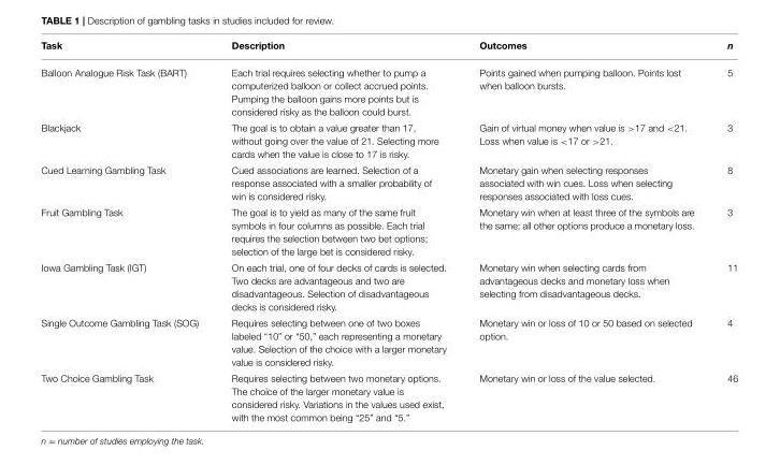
<table><thead><tr><td>Task</td><td>Description</td><td>Outcomes</td><td>n</td></tr></thead><tbody><tr><td>Balloon Analogue Risk Task (BART)</td><td>Each trial requires selecting whether to pump a computerized balloon or collect accrued points. Pumping the balloon gains more points but is considered risky as the balloon could burst.</td><td>Points gained when pumping balloon. Points lost when balloon bursts.</td><td>5</td></tr><tr><td>Blackjack</td><td>The goal is to obtain a value greater than 17, without going over the value of 21. Selecting more cards when the value is close to 17 is risky.</td><td>Gain of virtual money when value is &gt;17 and &lt;21. Loss when value is &lt;17 or &gt;21.</td><td>3</td></tr><tr><td>Cued Learning Gambling Task</td><td>Cued associations are learned. Selection of a response associated with a smaller probability of win is considered risky.</td><td>Monetary gain when selecting responses associated with win cues. Loss when selecting responses associated with loss cues.</td><td>8</td></tr><tr><td>Fruit Gambling Task</td><td>The goal is to yield as many of the same fruit symbols in four columns as possible. Each trial requires the selection between two bet options; selection of the large bet is considered risky.</td><td>Monetary win when at least three of the symbols are the same; all other options produce a monetary loss.</td><td>3</td></tr><tr><td>Iowa Gambling Task (IGT)</td><td>On each trial, one of four decks of cards is selected. Two decks are advantageous and two are disadvantageous. Selection of disadvantageous decks is considered risky.</td><td>Monetary win when selecting cards from advantageous decks and monetary loss when selecting from disadvantageous decks.</td><td>11</td></tr><tr><td>Single Outcome Gambling Task (SOG)</td><td>Requires selecting between one of two boxes labeled “10” or “50,” each representing a monetary value. Selection of the choice with a larger monetary value is considered risky.</td><td>Monetary win or loss of 10 or 50 based on selected option.</td><td>4</td></tr><tr><td>Two Choice Gambling Task</td><td>Requires selecting between two monetary options. The choice of the larger monetary value is considered risky. Variations in the values used exist, with the most common being “25” and “5.”</td><td>Monetary win or loss of the value selected.</td><td>46</td></tr></tbody></table>